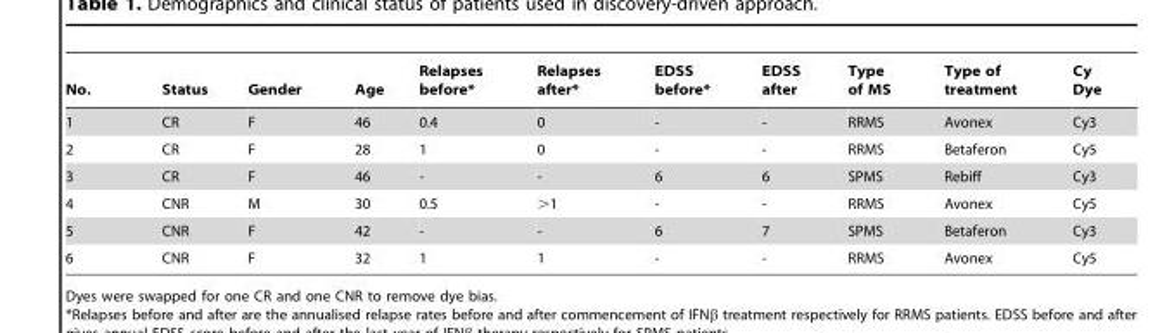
<table><thead><tr><td>No.</td><td>Status</td><td>Gender</td><td>Age</td><td>Relapses before*</td><td>Relapses after*</td><td>EDSS before*</td><td>EDSS after</td><td>Type of MS</td><td>Type of treatment</td><td>Cy Dye</td></tr></thead><tbody><tr><td>1</td><td>CR</td><td>F</td><td>46</td><td>0.4</td><td>0</td><td>-</td><td>-</td><td>RRMS</td><td>Avonex</td><td>Cy3</td></tr><tr><td>2</td><td>CR</td><td>F</td><td>28</td><td>1</td><td>0</td><td>-</td><td>-</td><td>RRMS</td><td>Betaferon</td><td>Cy5</td></tr><tr><td>3</td><td>CR</td><td>F</td><td>46</td><td>-</td><td>-</td><td>6</td><td>6</td><td>SPMS</td><td>Rebiff</td><td>Cy3</td></tr><tr><td>4</td><td>CNR</td><td>M</td><td>30</td><td>0.5</td><td>&gt;1</td><td>-</td><td>-</td><td>RRMS</td><td>Avonex</td><td>Cy5</td></tr><tr><td>5</td><td>CNR</td><td>F</td><td>42</td><td>-</td><td>-</td><td>6</td><td>7</td><td>SPMS</td><td>Betaferon</td><td>Cy3</td></tr><tr><td>6</td><td>CNR</td><td>F</td><td>32</td><td>1</td><td>1</td><td>-</td><td>-</td><td>RRMS</td><td>Avonex</td><td>Cy5</td></tr></tbody></table>